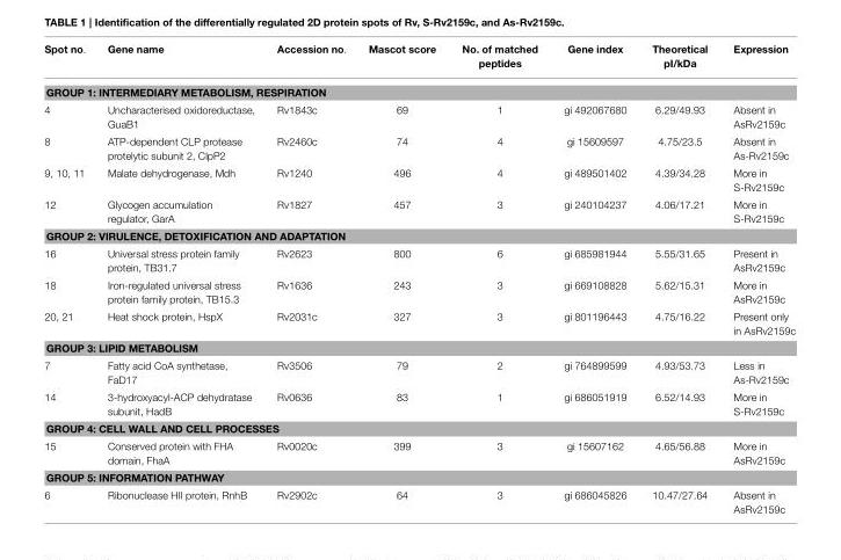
<table><thead><tr><td>Spot no.</td><td>Gene name</td><td>Accession no.</td><td>Mascot score</td><td>No. of matched peptides</td><td>Gene index</td><td>Theoretical pI/kDa</td><td>Expression</td></tr></thead><tbody><tr><td colspan="8">GROUP 1: INTERMEDIARY METABOLISM, RESPIRATION</td></tr><tr><td>4</td><td>Uncharacterised oxidoreductase, GuaB1</td><td>Rv1843c</td><td>69</td><td>1</td><td>gi 492067680</td><td>6.29/49.93</td><td>Absent in AsRv2159c</td></tr><tr><td>8</td><td>ATP-dependent CLP protease protelytic subunit 2, ClpP2</td><td>Rv2460c</td><td>74</td><td>4</td><td>gi 15609597</td><td>4.75/23.5</td><td>Absent in As-Rv2159c</td></tr><tr><td>9, 10, 11</td><td>Malate dehydrogenase, Mdh</td><td>Rv1240</td><td>496</td><td>4</td><td>gi 489501402</td><td>4.39/34.28</td><td>More in S-Rv2159c</td></tr><tr><td>12</td><td>Glycogen accumulation regulator, GarA</td><td>Rv1827</td><td>457</td><td>3</td><td>gi 240104237</td><td>4.06/17.21</td><td>More in S-Rv2159c</td></tr><tr><td colspan="8">GROUP 2: VIRULENCE, DETOXIFICATION AND ADAPTATION</td></tr><tr><td>16</td><td>Universal stress protein family protein, TB31.7</td><td>Rv2623</td><td>800</td><td>6</td><td>gi 685981944</td><td>5.55/31.65</td><td>Present in AsRv2159c</td></tr><tr><td>18</td><td>Iron-regulated universal stress protein family protein, TB15.3</td><td>Rv1636</td><td>243</td><td>3</td><td>gi 669108828</td><td>5.62/15.31</td><td>More in AsRv2159c</td></tr><tr><td>20, 21</td><td>Heat shock protein, HspX</td><td>Rv2031c</td><td>327</td><td>3</td><td>gi 801196443</td><td>4.75/16.22</td><td>Present only in AsRv2159c</td></tr><tr><td colspan="8">GROUP 3: LIPID METABOLISM</td></tr><tr><td>7</td><td>Fatty acid CoA synthetase, FaD17</td><td>Rv3506</td><td>79</td><td>2</td><td>gi 764899599</td><td>4.93/53.73</td><td>Less in As-Rv2159c</td></tr><tr><td>14</td><td>3-hydroxyacyl-ACP dehydratase subunit, HadB</td><td>Rv0636</td><td>83</td><td>1</td><td>gi 686051919</td><td>6.52/14.93</td><td>More in S-Rv2159c</td></tr><tr><td colspan="8">GROUP 4: CELL WALL AND CELL PROCESSES</td></tr><tr><td>15</td><td>Conserved protein with FHA domain, FhaA</td><td>Rv0020c</td><td>399</td><td>3</td><td>gi 15607162</td><td>4.65/56.88</td><td>More in AsRv2159c</td></tr><tr><td colspan="8">GROUP 5: INFORMATION PATHWAY</td></tr><tr><td>6</td><td>Ribonuclease HII protein, RnhB</td><td>Rv2902c</td><td>64</td><td>3</td><td>gi 686045826</td><td>10.47/27.64</td><td>Absent in AsRv2159c</td></tr></tbody></table>